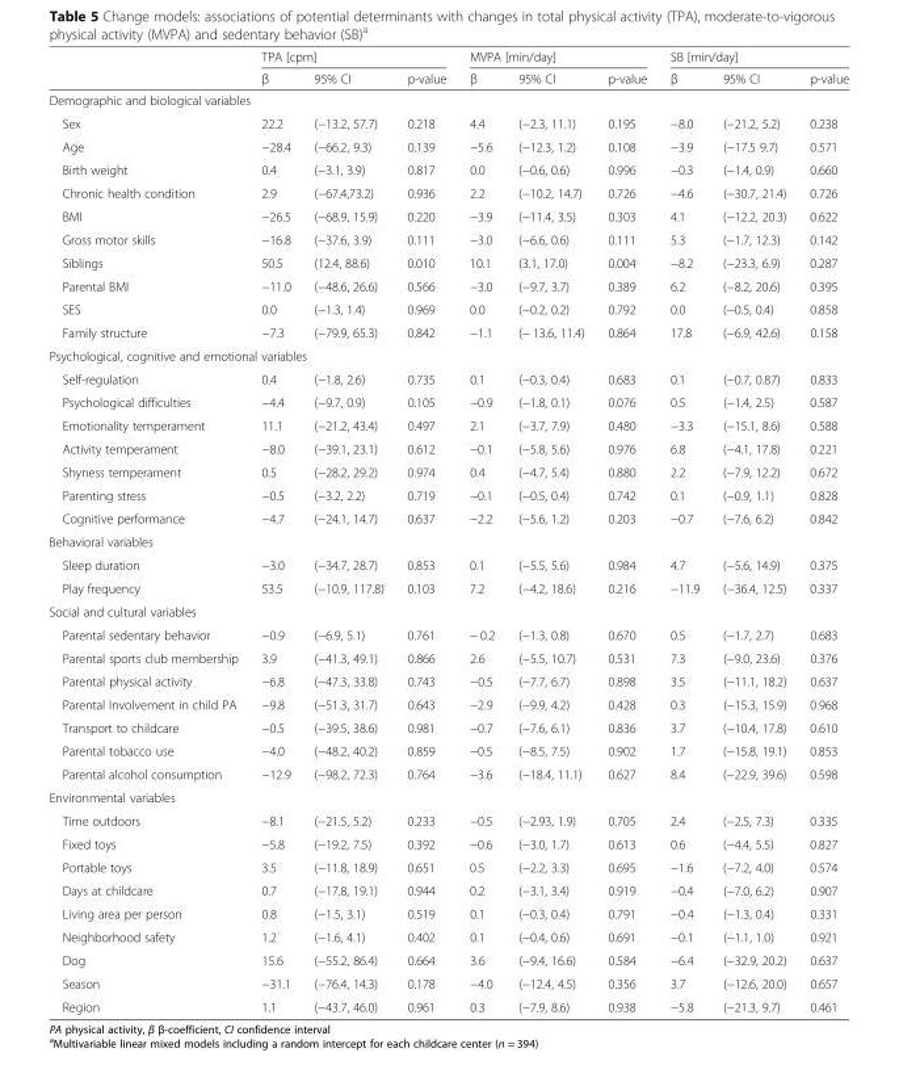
<table><thead><tr><td rowspan="2"></td><td colspan="3">TPA [cpm]</td><td colspan="3">MVPA [min/day]</td><td colspan="3">SB [min/day]</td></tr><tr><td>β</td><td>95% CI</td><td>p-value</td><td>β</td><td>95% CI</td><td>p-value</td><td>β</td><td>95% CI</td><td>p-value</td></tr></thead><tbody><tr><td colspan="10">Demographic and biological variables</td></tr><tr><td>Sex</td><td>22.2</td><td>(−13.2, 57.7)</td><td>0.218</td><td>4.4</td><td>(−2.3, 11.1)</td><td>0.195</td><td>−8.0</td><td>(−21.2, 5.2)</td><td>0.238</td></tr><tr><td>Age</td><td>−28.4</td><td>(−66.2, 9.3)</td><td>0.139</td><td>−5.6</td><td>(−12.3, 1.2)</td><td>0.108</td><td>−3.9</td><td>(−17.5 9.7)</td><td>0.571</td></tr><tr><td>Birth weight</td><td>0.4</td><td>(−3.1, 3.9)</td><td>0.817</td><td>0.0</td><td>(−0.6, 0.6)</td><td>0.996</td><td>−0.3</td><td>(−1.4, 0.9)</td><td>0.660</td></tr><tr><td>Chronic health condition</td><td>2.9</td><td>(−67.4,73.2)</td><td>0.936</td><td>2.2</td><td>(−10.2, 14.7)</td><td>0.726</td><td>−4.6</td><td>(−30.7, 21.4)</td><td>0.726</td></tr><tr><td>BMI</td><td>−26.5</td><td>(−68.9, 15.9)</td><td>0.220</td><td>−3.9</td><td>(−11.4, 3.5)</td><td>0.303</td><td>4.1</td><td>(−12.2, 20.3)</td><td>0.622</td></tr><tr><td>Gross motor skills</td><td>−16.8</td><td>(−37.6, 3.9)</td><td>0.111</td><td>−3.0</td><td>(−6.6, 0.6)</td><td>0.111</td><td>5.3</td><td>(−1.7, 12.3)</td><td>0.142</td></tr><tr><td>Siblings</td><td>50.5</td><td>(12.4, 88.6)</td><td>0.010</td><td>10.1</td><td>(3.1, 17.0)</td><td>0.004</td><td>−8.2</td><td>(−23.3, 6.9)</td><td>0.287</td></tr><tr><td>Parental BMI</td><td>−11.0</td><td>(−48.6, 26.6)</td><td>0.566</td><td>−3.0</td><td>(−9.7, 3.7)</td><td>0.389</td><td>6.2</td><td>(−8.2, 20.6)</td><td>0.395</td></tr><tr><td>SES</td><td>0.0</td><td>(−1.3, 1.4)</td><td>0.969</td><td>0.0</td><td>(−0.2, 0.2)</td><td>0.792</td><td>0.0</td><td>(−0.5, 0.4)</td><td>0.858</td></tr><tr><td>Family structure</td><td>−7.3</td><td>(−79.9, 65.3)</td><td>0.842</td><td>−1.1</td><td>(− 13.6, 11.4)</td><td>0.864</td><td>17.8</td><td>(−6.9, 42.6)</td><td>0.158</td></tr><tr><td colspan="10">Psychological, cognitive and emotional variables</td></tr><tr><td>Self-regulation</td><td>0.4</td><td>(−1.8, 2.6)</td><td>0.735</td><td>0.1</td><td>(−0.3, 0.4)</td><td>0.683</td><td>0.1</td><td>(−0.7, 0.87)</td><td>0.833</td></tr><tr><td>Psychological difficulties</td><td>−4.4</td><td>(−9.7, 0.9)</td><td>0.105</td><td>−0.9</td><td>(−1.8, 0.1)</td><td>0.076</td><td>0.5</td><td>(−1.4, 2.5)</td><td>0.587</td></tr><tr><td>Emotionality temperament</td><td>11.1</td><td>(−21.2, 43.4)</td><td>0.497</td><td>2.1</td><td>(−3.7, 7.9)</td><td>0.480</td><td>−3.3</td><td>(−15.1, 8.6)</td><td>0.588</td></tr><tr><td>Activity temperament</td><td>−8.0</td><td>(−39.1, 23.1)</td><td>0.612</td><td>−0.1</td><td>(−5.8, 5.6)</td><td>0.976</td><td>6.8</td><td>(−4.1, 17.8)</td><td>0.221</td></tr><tr><td>Shyness temperament</td><td>0.5</td><td>(−28.2, 29.2)</td><td>0.974</td><td>0.4</td><td>(−4.7, 5.4)</td><td>0.880</td><td>2.2</td><td>(−7.9, 12.2)</td><td>0.672</td></tr><tr><td>Parenting stress</td><td>−0.5</td><td>(−3.2, 2.2)</td><td>0.719</td><td>−0.1</td><td>(−0.5, 0.4)</td><td>0.742</td><td>0.1</td><td>(−0.9, 1.1)</td><td>0.828</td></tr><tr><td>Cognitive performance</td><td>−4.7</td><td>(−24.1, 14.7)</td><td>0.637</td><td>−2.2</td><td>(−5.6, 1.2)</td><td>0.203</td><td>−0.7</td><td>(−7.6, 6.2)</td><td>0.842</td></tr><tr><td colspan="10">Behavioral variables</td></tr><tr><td>Sleep duration</td><td>−3.0</td><td>(−34.7, 28.7)</td><td>0.853</td><td>0.1</td><td>(−5.5, 5.6)</td><td>0.984</td><td>4.7</td><td>(−5.6, 14.9)</td><td>0.375</td></tr><tr><td>Play frequency</td><td>53.5</td><td>(−10.9, 117.8)</td><td>0.103</td><td>7.2</td><td>(−4.2, 18.6)</td><td>0.216</td><td>−11.9</td><td>(−36.4, 12.5)</td><td>0.337</td></tr><tr><td colspan="10">Social and cultural variables</td></tr><tr><td>Parental sedentary behavior</td><td>−0.9</td><td>(−6.9, 5.1)</td><td>0.761</td><td>− 0.2</td><td>(−1.3, 0.8)</td><td>0.670</td><td>0.5</td><td>(−1.7, 2.7)</td><td>0.683</td></tr><tr><td>Parental sports club membership</td><td>3.9</td><td>(−41.3, 49.1)</td><td>0.866</td><td>2.6</td><td>(−5.5, 10.7)</td><td>0.531</td><td>7.3</td><td>(−9.0, 23.6)</td><td>0.376</td></tr><tr><td>Parental physical activity</td><td>−6.8</td><td>(−47.3, 33.8)</td><td>0.743</td><td>−0.5</td><td>(−7.7, 6.7)</td><td>0.898</td><td>3.5</td><td>(−11.1, 18.2)</td><td>0.637</td></tr><tr><td>Parental Involvement in child PA</td><td>−9.8</td><td>(−51.3, 31.7)</td><td>0.643</td><td>−2.9</td><td>(−9.9, 4.2)</td><td>0.428</td><td>0.3</td><td>(−15.3, 15.9)</td><td>0.968</td></tr><tr><td>Transport to childcare</td><td>−0.5</td><td>(−39.5, 38.6)</td><td>0.981</td><td>−0.7</td><td>(−7.6, 6.1)</td><td>0.836</td><td>3.7</td><td>(−10.4, 17.8)</td><td>0.610</td></tr><tr><td>Parental tobacco use</td><td>−4.0</td><td>(−48.2, 40.2)</td><td>0.859</td><td>−0.5</td><td>(−8.5, 7.5)</td><td>0.902</td><td>1.7</td><td>(−15.8, 19.1)</td><td>0.853</td></tr><tr><td>Parental alcohol consumption</td><td>−12.9</td><td>(−98.2, 72.3)</td><td>0.764</td><td>−3.6</td><td>(−18.4, 11.1)</td><td>0.627</td><td>8.4</td><td>(−22.9, 39.6)</td><td>0.598</td></tr><tr><td colspan="10">Environmental variables</td></tr><tr><td>Time outdoors</td><td>−8.1</td><td>(−21.5, 5.2)</td><td>0.233</td><td>−0.5</td><td>(−2.93, 1.9)</td><td>0.705</td><td>2.4</td><td>(−2.5, 7.3)</td><td>0.335</td></tr><tr><td>Fixed toys</td><td>−5.8</td><td>(−19.2, 7.5)</td><td>0.392</td><td>−0.6</td><td>(−3.0, 1.7)</td><td>0.613</td><td>0.6</td><td>(−4.4, 5.5)</td><td>0.827</td></tr><tr><td>Portable toys</td><td>3.5</td><td>(−11.8, 18.9)</td><td>0.651</td><td>0.5</td><td>(−2.2, 3.3)</td><td>0.695</td><td>−1.6</td><td>(−7.2, 4.0)</td><td>0.574</td></tr><tr><td>Days at childcare</td><td>0.7</td><td>(−17.8, 19.1)</td><td>0.944</td><td>0.2</td><td>(−3.1, 3.4)</td><td>0.919</td><td>−0.4</td><td>(−7.0, 6.2)</td><td>0.907</td></tr><tr><td>Living area per person</td><td>0.8</td><td>(−1.5, 3.1)</td><td>0.519</td><td>0.1</td><td>(−0.3, 0.4)</td><td>0.791</td><td>−0.4</td><td>(−1.3, 0.4)</td><td>0.331</td></tr><tr><td>Neighborhood safety</td><td>1.2</td><td>(−1.6, 4.1)</td><td>0.402</td><td>0.1</td><td>(−0.4, 0.6)</td><td>0.691</td><td>−0.1</td><td>(−1.1, 1.0)</td><td>0.921</td></tr><tr><td>Dog</td><td>15.6</td><td>(−55.2, 86.4)</td><td>0.664</td><td>3.6</td><td>(−9.4, 16.6)</td><td>0.584</td><td>−6.4</td><td>(−32.9, 20.2)</td><td>0.637</td></tr><tr><td>Season</td><td>−31.1</td><td>(−76.4, 14.3)</td><td>0.178</td><td>−4.0</td><td>(−12.4, 4.5)</td><td>0.356</td><td>3.7</td><td>(−12.6, 20.0)</td><td>0.657</td></tr><tr><td>Region</td><td>1.1</td><td>(−43.7, 46.0)</td><td>0.961</td><td>0.3</td><td>(−7.9, 8.6)</td><td>0.938</td><td>−5.8</td><td>(−21.3, 9.7)</td><td>0.461</td></tr></tbody></table>